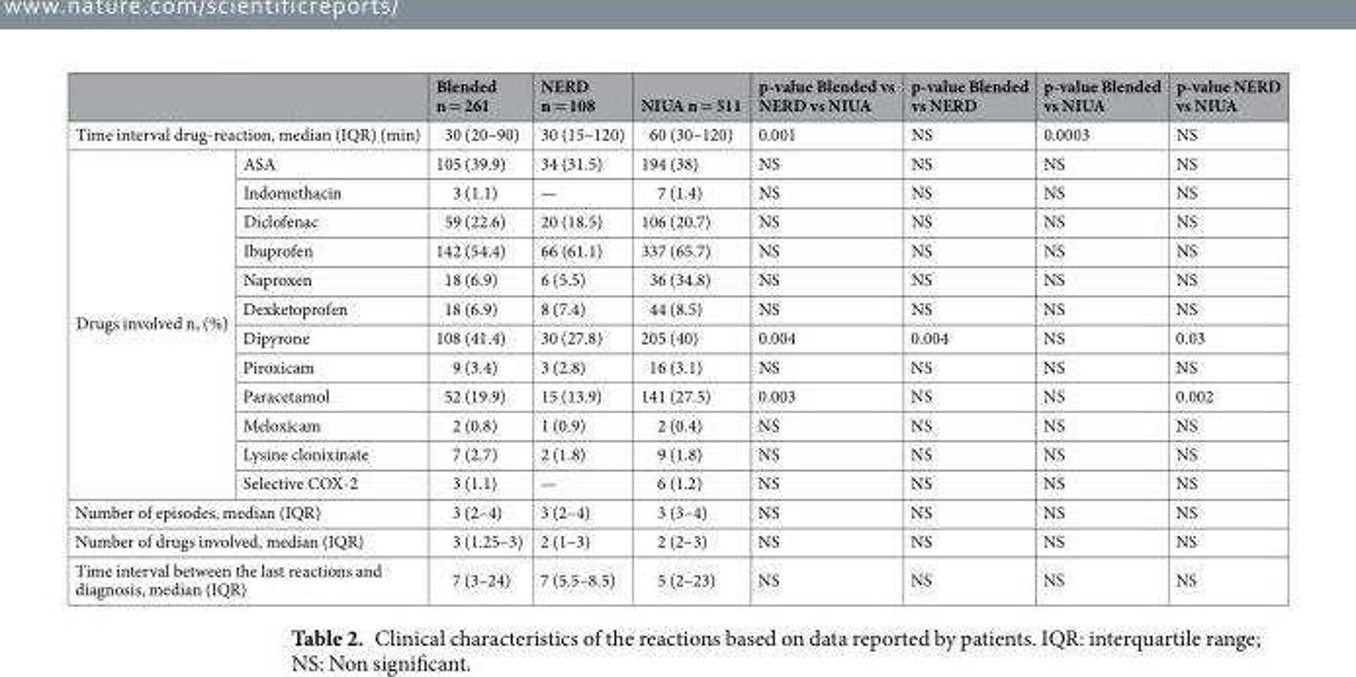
<table><thead><tr><td></td><td></td><td>Blended n = 261</td><td>NERD n = 108</td><td>NIUA n = 511</td><td>p-value Blended vs NERD vs NIUA</td><td>p-value Blended vs NERD</td><td>p-value Blended vs NIUA</td><td>p-value NERD vs NIUA</td></tr></thead><tbody><tr><td colspan="2">Time interval drug-reaction, median (IQR) (min)</td><td>30 (20–90)</td><td>30 (15–120)</td><td>60 (30–120)</td><td>0.001</td><td>NS</td><td>0.0003</td><td>NS</td></tr><tr><td rowspan="12">Drugs involved n, (%)</td><td>ASA</td><td>105 (39.9)</td><td>34 (31.5)</td><td>194 (38)</td><td>NS</td><td>NS</td><td>NS</td><td>NS</td></tr><tr><td>Indomethacin</td><td>3 (1.1)</td><td>—</td><td>7 (1.4)</td><td>NS</td><td>NS</td><td>NS</td><td>NS</td></tr><tr><td>Diclofenac</td><td>59 (22.6)</td><td>20 (18.5)</td><td>106 (20.7)</td><td>NS</td><td>NS</td><td>NS</td><td>NS</td></tr><tr><td>Ibuprofen</td><td>142 (54.4)</td><td>66 (61.1)</td><td>337 (65.7)</td><td>NS</td><td>NS</td><td>NS</td><td>NS</td></tr><tr><td>Naproxen</td><td>18 (6.9)</td><td>6 (5.5)</td><td>36 (34.8)</td><td>NS</td><td>NS</td><td>NS</td><td>NS</td></tr><tr><td>Dexketoprofen</td><td>18 (6.9)</td><td>8 (7.4)</td><td>44 (8.5)</td><td>NS</td><td>NS</td><td>NS</td><td>NS</td></tr><tr><td>Dipyrone</td><td>108 (41.4)</td><td>30 (27.8)</td><td>205 (40)</td><td>0.004</td><td>0.004</td><td>NS</td><td>0.03</td></tr><tr><td>Piroxicam</td><td>9 (3.4)</td><td>3 (2.8)</td><td>16 (3.1)</td><td>NS</td><td>NS</td><td>NS</td><td>NS</td></tr><tr><td>Paracetamol</td><td>52 (19.9)</td><td>15 (13.9)</td><td>141 (27.5)</td><td>0.003</td><td>NS</td><td>NS</td><td>0.002</td></tr><tr><td>Meloxicam</td><td>2 (0.8)</td><td>1 (0.9)</td><td>2 (0.4)</td><td>NS</td><td>NS</td><td>NS</td><td>NS</td></tr><tr><td>Lysine clonixinate</td><td>7 (2.7)</td><td>2 (1.8)</td><td>9 (1.8)</td><td>NS</td><td>NS</td><td>NS</td><td>NS</td></tr><tr><td>Selective COX-2</td><td>3 (1.1)</td><td>—</td><td>6 (1.2)</td><td>NS</td><td>NS</td><td>NS</td><td>NS</td></tr><tr><td colspan="2">Number of episodes, median (IQR)</td><td>3 (2–4)</td><td>3 (2–4)</td><td>3 (3–4)</td><td>NS</td><td>NS</td><td>NS</td><td>NS</td></tr><tr><td colspan="2">Number of drugs involved, median (IQR)</td><td>3 (1.25–3)</td><td>2 (1–3)</td><td>2 (2–3)</td><td>NS</td><td>NS</td><td>NS</td><td>NS</td></tr><tr><td colspan="2">Time interval between the last reactions and diagnosis, median (IQR)</td><td>7 (3–24)</td><td>7 (5.5–8.5)</td><td>5 (2–23)</td><td>NS</td><td>NS</td><td>NS</td><td>NS</td></tr></tbody></table>